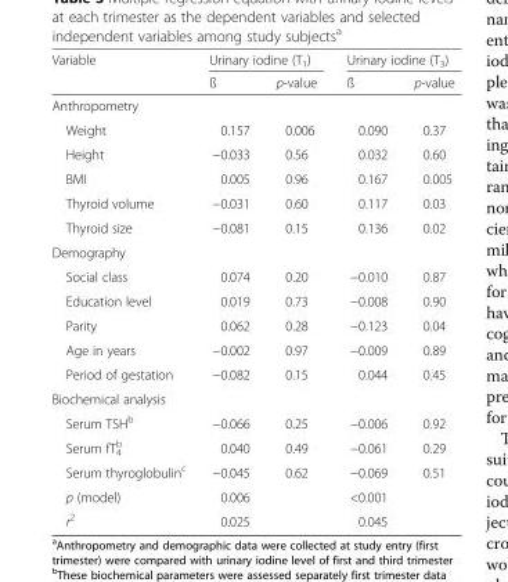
<table><thead><tr><td rowspan="2">Variable</td><td colspan="2">Urinary iodine (T<sub>1</sub>)</td><td colspan="2">Urinary iodine (T<sub>3</sub>)</td></tr><tr><td>ß</td><td>p-value</td><td>ß</td><td>p-value</td></tr></thead><tbody><tr><td colspan="5">Anthropometry</td></tr><tr><td>Weight</td><td>0.157</td><td>0.006</td><td>0.090</td><td>0.37</td></tr><tr><td>Height</td><td>−0.033</td><td>0.56</td><td>0.032</td><td>0.60</td></tr><tr><td>BMI</td><td>0.005</td><td>0.96</td><td>0.167</td><td>0.005</td></tr><tr><td>Thyroid volume</td><td>−0.031</td><td>0.60</td><td>0.117</td><td>0.03</td></tr><tr><td>Thyroid size</td><td>−0.081</td><td>0.15</td><td>0.136</td><td>0.02</td></tr><tr><td colspan="5">Demography</td></tr><tr><td>Social class</td><td>0.074</td><td>0.20</td><td>−0.010</td><td>0.87</td></tr><tr><td>Education level</td><td>0.019</td><td>0.73</td><td>−0.008</td><td>0.90</td></tr><tr><td>Parity</td><td>0.062</td><td>0.28</td><td>−0.123</td><td>0.04</td></tr><tr><td>Age in years</td><td>−0.002</td><td>0.97</td><td>−0.009</td><td>0.89</td></tr><tr><td>Period of gestation</td><td>−0.082</td><td>0.15</td><td>0.044</td><td>0.45</td></tr><tr><td colspan="5">Biochemical analysis</td></tr><tr><td>Serum TSH<sup>b</sup></td><td>−0.066</td><td>0.25</td><td>−0.006</td><td>0.92</td></tr><tr><td>Serum fT<sub>4</sub> <sup>b</sup></td><td>0.040</td><td>0.49</td><td>−0.061</td><td>0.29</td></tr><tr><td>Serum thyroglobulin<sup>c</sup></td><td>−0.045</td><td>0.62</td><td>−0.069</td><td>0.51</td></tr><tr><td>p (model)</td><td colspan="2">0.006</td><td colspan="2">&lt;0.001</td></tr><tr><td>r<sup>2</sup></td><td colspan="2">0.025</td><td colspan="2">0.045</td></tr></tbody></table>